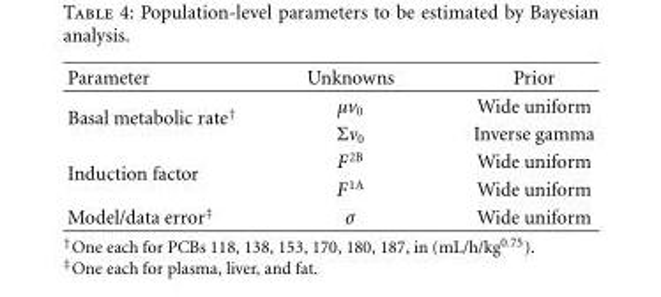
<table><thead><tr><td>Parameter</td><td>Unknowns</td><td>Prior</td></tr></thead><tbody><tr><td rowspan="2">Basal metabolic rate<sup>†</sup></td><td>μv<sub>0</sub></td><td>Wide uniform</td></tr><tr><td>Σv<sub>0</sub></td><td>Inverse gamma</td></tr><tr><td rowspan="2">Induction factor</td><td>F<sup>2B</sup></td><td>Wide uniform</td></tr><tr><td>F<sup>1A</sup></td><td>Wide uniform</td></tr><tr><td>Model/data error<sup>‡</sup></td><td>σ</td><td>Wide uniform</td></tr></tbody></table>